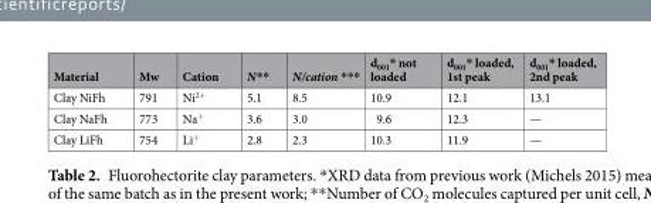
<table><thead><tr><td>Material</td><td>Mw</td><td>Cation</td><td>N**</td><td>N/cation ***</td><td>d<sub>001</sub>* not loaded</td><td>d<sub>001</sub>* loaded, 1st peak</td><td>d<sub>001</sub>* loaded, 2nd peak</td></tr></thead><tbody><tr><td>Clay NiFh</td><td>791</td><td>Ni<sup>2+</sup></td><td>5.1</td><td>8.5</td><td>10.9</td><td>12.1</td><td>13.1</td></tr><tr><td>Clay NaFh</td><td>773</td><td>Na<sup>+</sup></td><td>3.6</td><td>3.0</td><td>9.6</td><td>12.3</td><td>—</td></tr><tr><td>Clay LiFh</td><td>754</td><td>Li<sup>+</sup></td><td>2.8</td><td>2.3</td><td>10.3</td><td>11.9</td><td>—</td></tr></tbody></table>